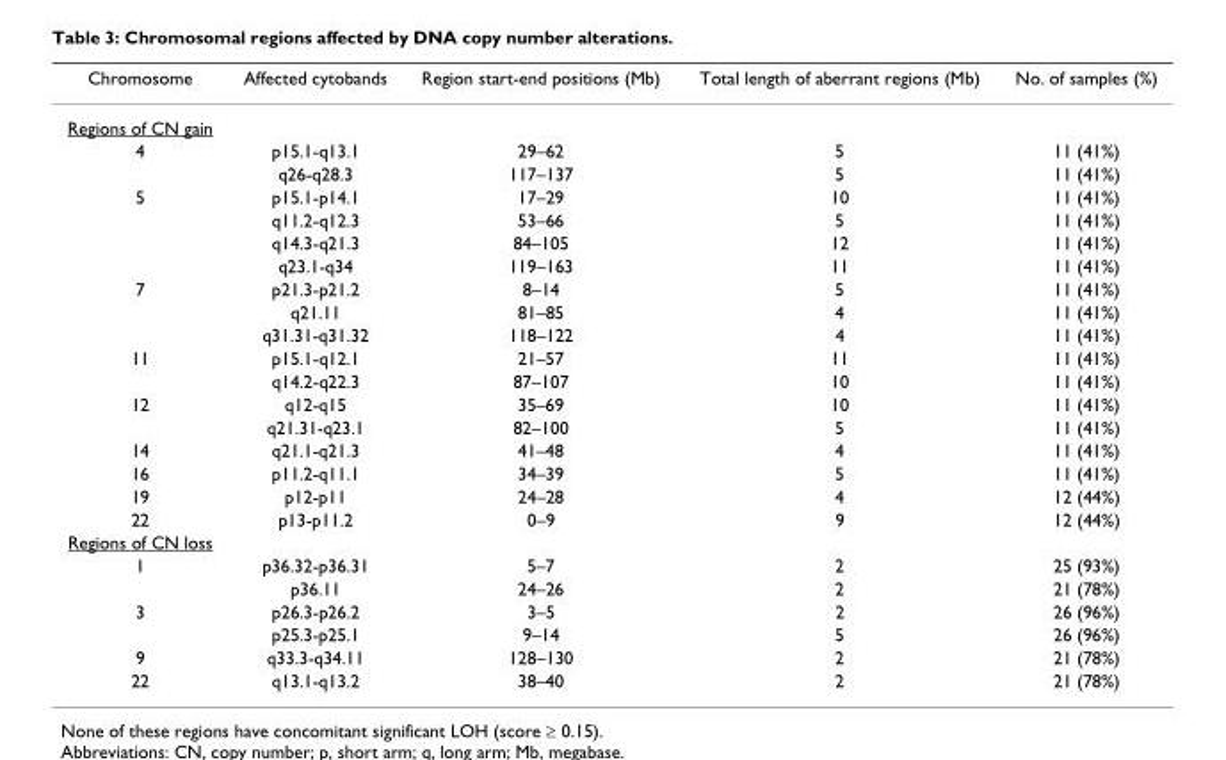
<table><thead><tr><td>Chromosome</td><td>Affected cytobands</td><td>Region start-end positions (Mb)</td><td>Total length of aberrant regions (Mb)</td><td>No. of samples (%)</td></tr></thead><tbody><tr><td colspan="5">Regions of CN gain</td></tr><tr><td rowspan="2">4</td><td>p15.1-q13.1</td><td>29–62</td><td>5</td><td>11 (41%)</td></tr><tr><td>q26-q28.3</td><td>117–137</td><td>5</td><td>11 (41%)</td></tr><tr><td rowspan="4">5</td><td>p15.1-p14.1</td><td>17–29</td><td>10</td><td>11 (41%)</td></tr><tr><td>q11.2-q12.3</td><td>53–66</td><td>5</td><td>11 (41%)</td></tr><tr><td>q14.3-q21.3</td><td>84–105</td><td>12</td><td>11 (41%)</td></tr><tr><td>q23.1-q34</td><td>119–163</td><td>11</td><td>11 (41%)</td></tr><tr><td rowspan="3">7</td><td>p21.3-p21.2</td><td>8–14</td><td>5</td><td>11 (41%)</td></tr><tr><td>q21.11</td><td>81–85</td><td>4</td><td>11 (41%)</td></tr><tr><td>q31.31-q31.32</td><td>118–122</td><td>4</td><td>11 (41%)</td></tr><tr><td rowspan="2">11</td><td>p15.1-q12.1</td><td>21–57</td><td>11</td><td>11 (41%)</td></tr><tr><td>q14.2-q22.3</td><td>87–107</td><td>10</td><td>11 (41%)</td></tr><tr><td rowspan="2">12</td><td>q12-q15</td><td>35–69</td><td>10</td><td>11 (41%)</td></tr><tr><td>q21.31-q23.1</td><td>82–100</td><td>5</td><td>11 (41%)</td></tr><tr><td>14</td><td>q21.1-q21.3</td><td>41–48</td><td>4</td><td>11 (41%)</td></tr><tr><td>16</td><td>p11.2-q11.1</td><td>34–39</td><td>5</td><td>11 (41%)</td></tr><tr><td>19</td><td>p12-p11</td><td>24–28</td><td>4</td><td>12 (44%)</td></tr><tr><td>22</td><td>p13-p11.2</td><td>0–9</td><td>9</td><td>12 (44%)</td></tr><tr><td colspan="5">Regions of CN loss</td></tr><tr><td rowspan="2">1</td><td>p36.32-p36.31</td><td>5–7</td><td>2</td><td>25 (93%)</td></tr><tr><td>p36.11</td><td>24–26</td><td>2</td><td>21 (78%)</td></tr><tr><td rowspan="2">3</td><td>p26.3-p26.2</td><td>3–5</td><td>2</td><td>26 (96%)</td></tr><tr><td>p25.3-p25.1</td><td>9–14</td><td>5</td><td>26 (96%)</td></tr><tr><td>9</td><td>q33.3-q34.11</td><td>128–130</td><td>2</td><td>21 (78%)</td></tr><tr><td>22</td><td>q13.1-q13.2</td><td>38–40</td><td>2</td><td>21 (78%)</td></tr></tbody></table>